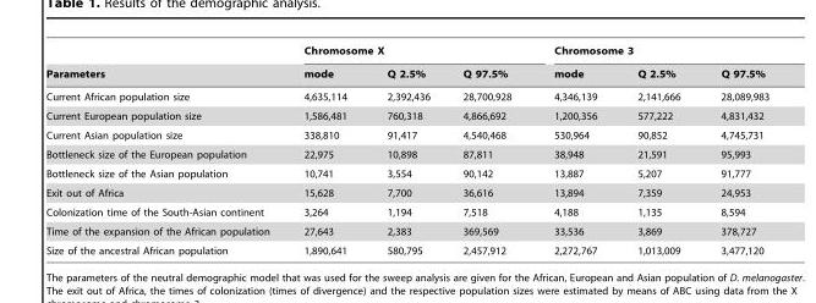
<table><thead><tr><td rowspan="2">Parameters</td><td colspan="3">Chromosome X</td><td colspan="3">Chromosome 3</td></tr><tr><td>mode</td><td>Q 2.5%</td><td>Q 97.5%</td><td>mode</td><td>Q 2.5%</td><td>Q 97.5%</td></tr></thead><tbody><tr><td>Current African population size</td><td>4,635,114</td><td>2,392,436</td><td>28,700,928</td><td>4,346,139</td><td>2,141,666</td><td>28,089,983</td></tr><tr><td>Current European population size</td><td>1,586,481</td><td>760,318</td><td>4,866,692</td><td>1,200,356</td><td>577,222</td><td>4,831,432</td></tr><tr><td>Current Asian population size</td><td>338,810</td><td>91,417</td><td>4,540,468</td><td>530,964</td><td>90,852</td><td>4,745,731</td></tr><tr><td>Bottleneck size of the European population</td><td>22,975</td><td>10,898</td><td>87,811</td><td>38,948</td><td>21,591</td><td>95,993</td></tr><tr><td>Bottleneck size of the Asian population</td><td>10,741</td><td>3,554</td><td>90,142</td><td>13,887</td><td>5,207</td><td>91,777</td></tr><tr><td>Exit out of Africa</td><td>15,628</td><td>7,700</td><td>36,616</td><td>13,894</td><td>7,359</td><td>24,953</td></tr><tr><td>Colonization time of the South-Asian continent</td><td>3,264</td><td>1,194</td><td>7,518</td><td>4,188</td><td>1,135</td><td>8,594</td></tr><tr><td>Time of the expansion of the African population</td><td>27,643</td><td>2,383</td><td>369,569</td><td>33,536</td><td>3,869</td><td>378,727</td></tr><tr><td>Size of the ancestral African population</td><td>1,890,641</td><td>580,795</td><td>2,457,912</td><td>2,272,767</td><td>1,013,009</td><td>3,477,120</td></tr></tbody></table>